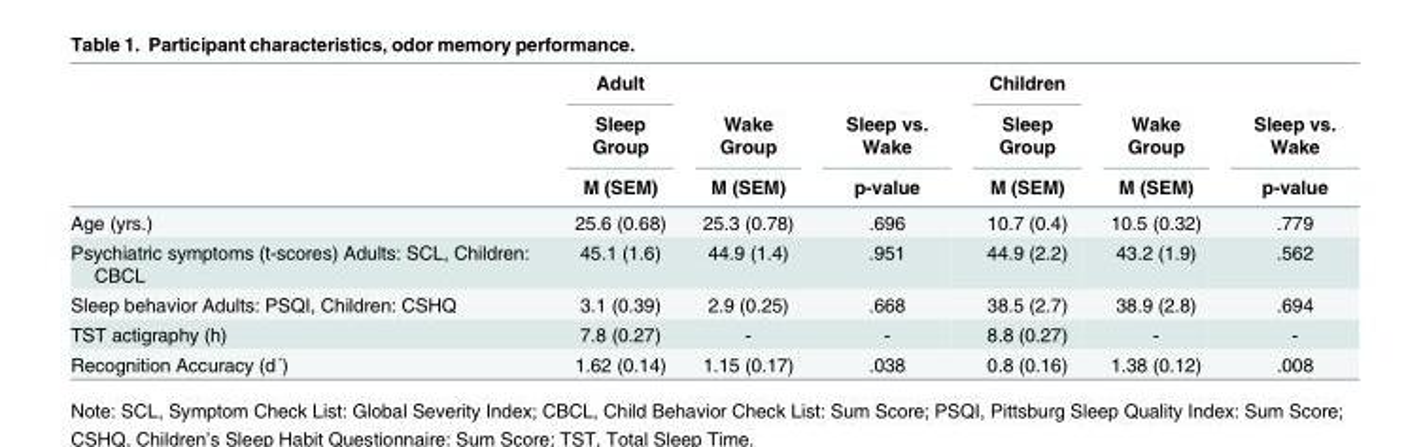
<table><thead><tr><td rowspan="3"></td><td rowspan="3">Adult Sleep Group M (SEM)</td><td rowspan="3">Wake Group M (SEM)</td><td rowspan="3">Sleep vs. Wake p-value</td><td rowspan="3">Children Sleep Group M (SEM)</td><td rowspan="3">Wake Group M (SEM)</td><td rowspan="3">Sleep vs. Wake p-value</td></tr><tr></tr><tr></tr></thead><tbody><tr><td>Age (yrs.)</td><td>25.6 (0.68)</td><td>25.3 (0.78)</td><td>.696</td><td>10.7 (0.4)</td><td>10.5 (0.32)</td><td>.779</td></tr><tr><td>Psychiatric symptoms (t-scores) Adults: SCL, Children: CBCL</td><td>45.1 (1.6)</td><td>44.9 (1.4)</td><td>.951</td><td>44.9 (2.2)</td><td>43.2 (1.9)</td><td>.562</td></tr><tr><td>Sleep behavior Adults: PSQI, Children: CSHQ</td><td>3.1 (0.39)</td><td>2.9 (0.25)</td><td>.668</td><td>38.5 (2.7)</td><td>38.9 (2.8)</td><td>.694</td></tr><tr><td>TST actigraphy (h)</td><td>7.8 (0.27)</td><td>-</td><td>-</td><td>8.8 (0.27)</td><td>-</td><td>-</td></tr><tr><td>Recognition Accuracy (d´)</td><td>1.62 (0.14)</td><td>1.15 (0.17)</td><td>.038</td><td>0.8 (0.16)</td><td>1.38 (0.12)</td><td>.008</td></tr></tbody></table>